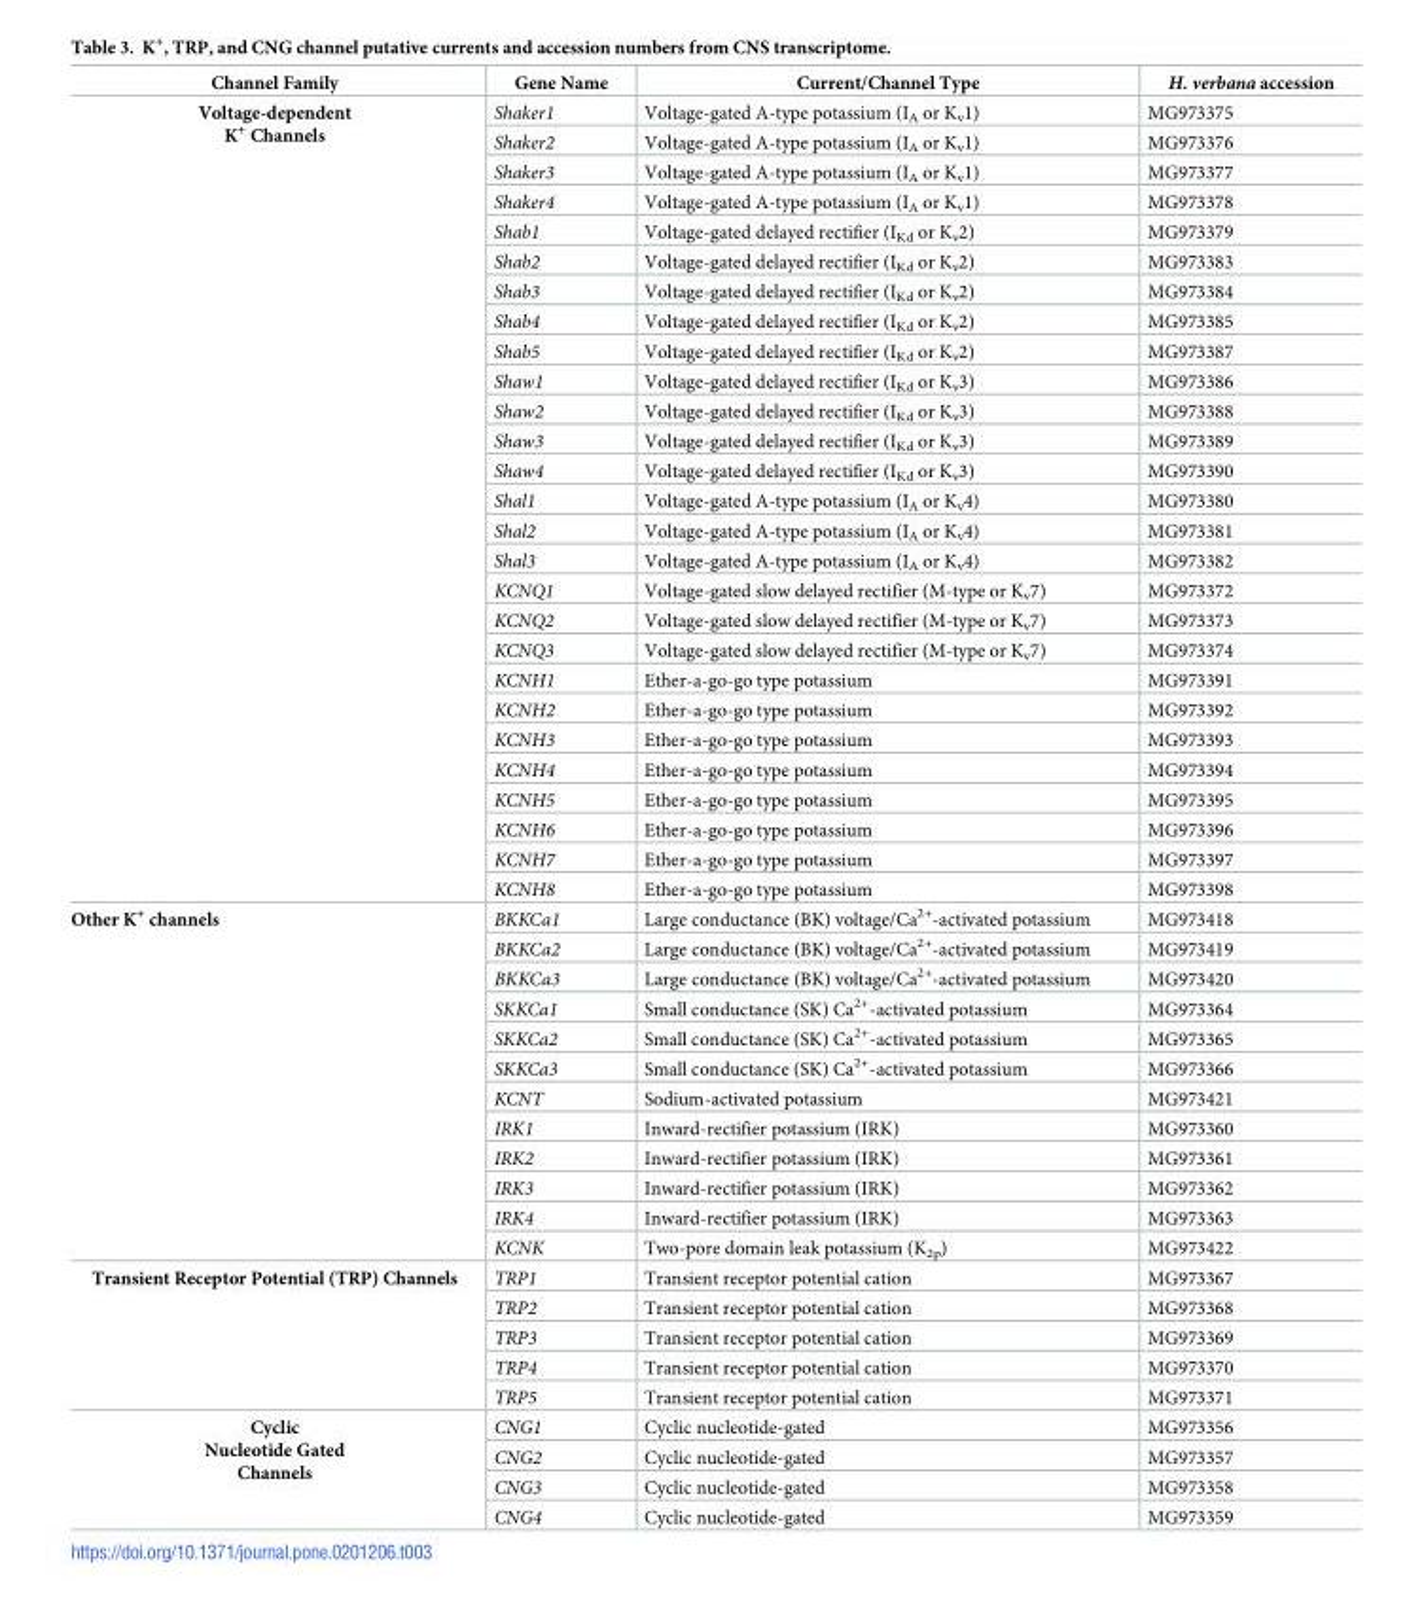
<table><thead><tr><td>Channel Family</td><td>Gene Name</td><td>Current/Channel Type</td><td>H. verbana accession</td></tr></thead><tbody><tr><td rowspan="27">Voltage-dependent K<sup>+</sup> Channels</td><td>Shaker1</td><td>Voltage-gated A-type potassium (I<sub>A</sub> or K<sub>v</sub>1)</td><td>MG973375</td></tr><tr><td>Shaker2</td><td>Voltage-gated A-type potassium (I<sub>A</sub> or K<sub>v</sub>1)</td><td>MG973376</td></tr><tr><td>Shaker3</td><td>Voltage-gated A-type potassium (I<sub>A</sub> or K<sub>v</sub>1)</td><td>MG973377</td></tr><tr><td>Shaker4</td><td>Voltage-gated A-type potassium (I<sub>A</sub> or K<sub>v</sub>1)</td><td>MG973378</td></tr><tr><td>Shab1</td><td>Voltage-gated delayed rectifier (I<sub>Kd</sub> or K<sub>v</sub>2)</td><td>MG973379</td></tr><tr><td>Shab2</td><td>Voltage-gated delayed rectifier (I<sub>Kd</sub> or K<sub>v</sub>2)</td><td>MG973383</td></tr><tr><td>Shab3</td><td>Voltage-gated delayed rectifier (I<sub>Kd</sub> or K<sub>v</sub>2)</td><td>MG973384</td></tr><tr><td>Shab4</td><td>Voltage-gated delayed rectifier (I<sub>Kd</sub> or K<sub>v</sub>2)</td><td>MG973385</td></tr><tr><td>Shab5</td><td>Voltage-gated delayed rectifier (I<sub>Kd</sub> or K<sub>v</sub>2)</td><td>MG973387</td></tr><tr><td>Shaw1</td><td>Voltage-gated delayed rectifier (I<sub>Kd</sub> or K<sub>v</sub>3)</td><td>MG973386</td></tr><tr><td>Shaw2</td><td>Voltage-gated delayed rectifier (I<sub>Kd</sub> or K<sub>v</sub>3)</td><td>MG973388</td></tr><tr><td>Shaw3</td><td>Voltage-gated delayed rectifier (I<sub>Kd</sub> or K<sub>v</sub>3)</td><td>MG973389</td></tr><tr><td>Shaw4</td><td>Voltage-gated delayed rectifier (I<sub>Kd</sub> or K<sub>v</sub>3)</td><td>MG973390</td></tr><tr><td>Shal1</td><td>Voltage-gated A-type potassium (I<sub>A</sub> or K<sub>v</sub>4)</td><td>MG973380</td></tr><tr><td>Shal2</td><td>Voltage-gated A-type potassium (I<sub>A</sub> or K<sub>v</sub>4)</td><td>MG973381</td></tr><tr><td>Shal3</td><td>Voltage-gated A-type potassium (I<sub>A</sub> or K<sub>v</sub>4)</td><td>MG973382</td></tr><tr><td>KCNQ1</td><td>Voltage-gated slow delayed rectifier (M-type or K<sub>v</sub>7)</td><td>MG973372</td></tr><tr><td>KCNQ2</td><td>Voltage-gated slow delayed rectifier (M-type or K<sub>v</sub>7)</td><td>MG973373</td></tr><tr><td>KCNQ3</td><td>Voltage-gated slow delayed rectifier (M-type or K<sub>v</sub>7)</td><td>MG973374</td></tr><tr><td>KCNH1</td><td>Ether-a-go-go type potassium</td><td>MG973391</td></tr><tr><td>KCNH2</td><td>Ether-a-go-go type potassium</td><td>MG973392</td></tr><tr><td>KCNH3</td><td>Ether-a-go-go type potassium</td><td>MG973393</td></tr><tr><td>KCNH4</td><td>Ether-a-go-go type potassium</td><td>MG973394</td></tr><tr><td>KCNH5</td><td>Ether-a-go-go type potassium</td><td>MG973395</td></tr><tr><td>KCNH6</td><td>Ether-a-go-go type potassium</td><td>MG973396</td></tr><tr><td>KCNH7</td><td>Ether-a-go-go type potassium</td><td>MG973397</td></tr><tr><td>KCNH8</td><td>Ether-a-go-go type potassium</td><td>MG973398</td></tr><tr><td rowspan="12">Other K<sup>+</sup> channels</td><td>BKKCa1</td><td>Large conductance (BK) voltage/Ca<sup>2+</sup>-activated potassium</td><td>MG973418</td></tr><tr><td>BKKCa2</td><td>Large conductance (BK) voltage/Ca<sup>2+</sup>-activated potassium</td><td>MG973419</td></tr><tr><td>BKKCa3</td><td>Large conductance (BK) voltage/Ca<sup>2+</sup>-activated potassium</td><td>MG973420</td></tr><tr><td>SKKCa1</td><td>Small conductance (SK) Ca<sup>2+</sup>-activated potassium</td><td>MG973364</td></tr><tr><td>SKKCa2</td><td>Small conductance (SK) Ca<sup>2+</sup>-activated potassium</td><td>MG973365</td></tr><tr><td>SKKCa3</td><td>Small conductance (SK) Ca<sup>2+</sup>-activated potassium</td><td>MG973366</td></tr><tr><td>KCNT</td><td>Sodium-activated potassium</td><td>MG973421</td></tr><tr><td>IRK1</td><td>Inward-rectifier potassium (IRK)</td><td>MG973360</td></tr><tr><td>IRK2</td><td>Inward-rectifier potassium (IRK)</td><td>MG973361</td></tr><tr><td>IRK3</td><td>Inward-rectifier potassium (IRK)</td><td>MG973362</td></tr><tr><td>IRK4</td><td>Inward-rectifier potassium (IRK)</td><td>MG973363</td></tr><tr><td>KCNK</td><td>Two-pore domain leak potassium (K<sub>2p</sub>)</td><td>MG973422</td></tr><tr><td rowspan="5">Transient Receptor Potential (TRP) Channels</td><td>TRP1</td><td>Transient receptor potential cation</td><td>MG973367</td></tr><tr><td>TRP2</td><td>Transient receptor potential cation</td><td>MG973368</td></tr><tr><td>TRP3</td><td>Transient receptor potential cation</td><td>MG973369</td></tr><tr><td>TRP4</td><td>Transient receptor potential cation</td><td>MG973370</td></tr><tr><td>TRP5</td><td>Transient receptor potential cation</td><td>MG973371</td></tr><tr><td rowspan="4">Cyclic Nucleotide Gated Channels</td><td>CNG1</td><td>Cyclic nucleotide-gated</td><td>MG973356</td></tr><tr><td>CNG2</td><td>Cyclic nucleotide-gated</td><td>MG973357</td></tr><tr><td>CNG3</td><td>Cyclic nucleotide-gated</td><td>MG973358</td></tr><tr><td>CNG4</td><td>Cyclic nucleotide-gated</td><td>MG973359</td></tr></tbody></table>